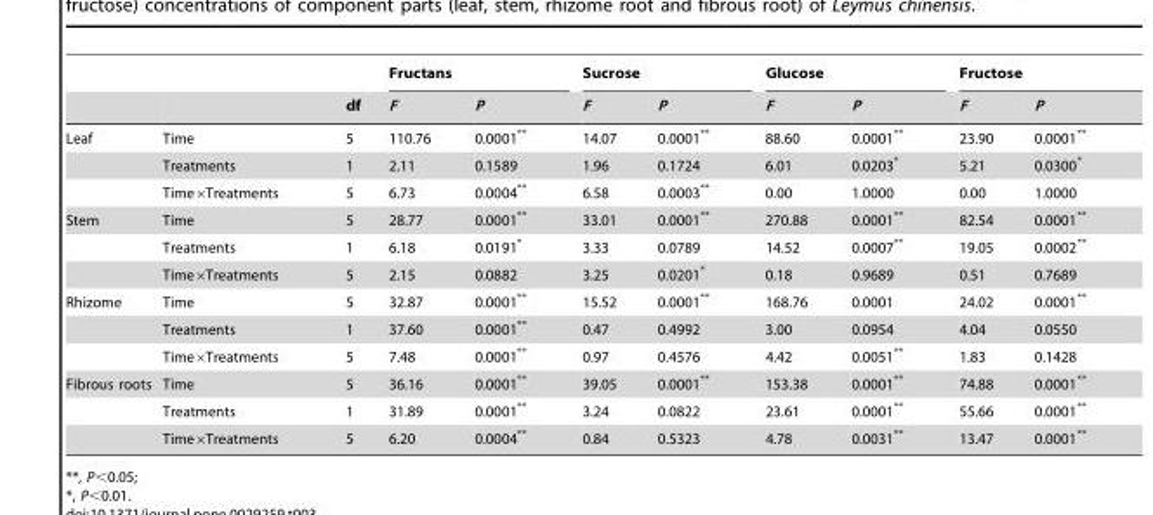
<table><thead><tr><td rowspan="2"></td><td rowspan="2"></td><td rowspan="2">df</td><td colspan="2">Fructans</td><td colspan="2">Sucrose</td><td colspan="2">Glucose</td><td colspan="2">Fructose</td></tr><tr><td>F</td><td>P</td><td>F</td><td>P</td><td>F</td><td>P</td><td>F</td><td>P</td></tr></thead><tbody><tr><td rowspan="3">Leaf</td><td>Time</td><td>5</td><td>110.76</td><td>0.0001**</td><td>14.07</td><td>0.0001**</td><td>88.60</td><td>0.0001**</td><td>23.90</td><td>0.0001**</td></tr><tr><td>Treatments</td><td>1</td><td>2.11</td><td>0.1589</td><td>1.96</td><td>0.1724</td><td>6.01</td><td>0.0203*</td><td>5.21</td><td>0.0300*</td></tr><tr><td>Time×Treatments</td><td>5</td><td>6.73</td><td>0.0004**</td><td>6.58</td><td>0.0003**</td><td>0.00</td><td>1.0000</td><td>0.00</td><td>1.0000</td></tr><tr><td rowspan="3">Stem</td><td>Time</td><td>5</td><td>28.77</td><td>0.0001**</td><td>33.01</td><td>0.0001**</td><td>270.88</td><td>0.0001**</td><td>82.54</td><td>0.0001**</td></tr><tr><td>Treatments</td><td>1</td><td>6.18</td><td>0.0191*</td><td>3.33</td><td>0.0789</td><td>14.52</td><td>0.0007**</td><td>19.05</td><td>0.0002**</td></tr><tr><td>Time×Treatments</td><td>5</td><td>2.15</td><td>0.0882</td><td>3.25</td><td>0.0201*</td><td>0.18</td><td>0.9689</td><td>0.51</td><td>0.7689</td></tr><tr><td rowspan="3">Rhizome</td><td>Time</td><td>5</td><td>32.87</td><td>0.0001**</td><td>15.52</td><td>0.0001**</td><td>168.76</td><td>0.0001</td><td>24.02</td><td>0.0001**</td></tr><tr><td>Treatments</td><td>1</td><td>37.60</td><td>0.0001**</td><td>0.47</td><td>0.4992</td><td>3.00</td><td>0.0954</td><td>4.04</td><td>0.0550</td></tr><tr><td>Time×Treatments</td><td>5</td><td>7.48</td><td>0.0001**</td><td>0.97</td><td>0.4576</td><td>4.42</td><td>0.0051**</td><td>1.83</td><td>0.1428</td></tr><tr><td rowspan="3">Fibrous roots</td><td>Time</td><td>5</td><td>36.16</td><td>0.0001**</td><td>39.05</td><td>0.0001**</td><td>153.38</td><td>0.0001**</td><td>74.88</td><td>0.0001**</td></tr><tr><td>Treatments</td><td>1</td><td>31.89</td><td>0.0001**</td><td>3.24</td><td>0.0822</td><td>23.61</td><td>0.0001**</td><td>55.66</td><td>0.0001**</td></tr><tr><td>Time×Treatments</td><td>5</td><td>6.20</td><td>0.0004**</td><td>0.84</td><td>0.5323</td><td>4.78</td><td>0.0031**</td><td>13.47</td><td>0.0001**</td></tr></tbody></table>